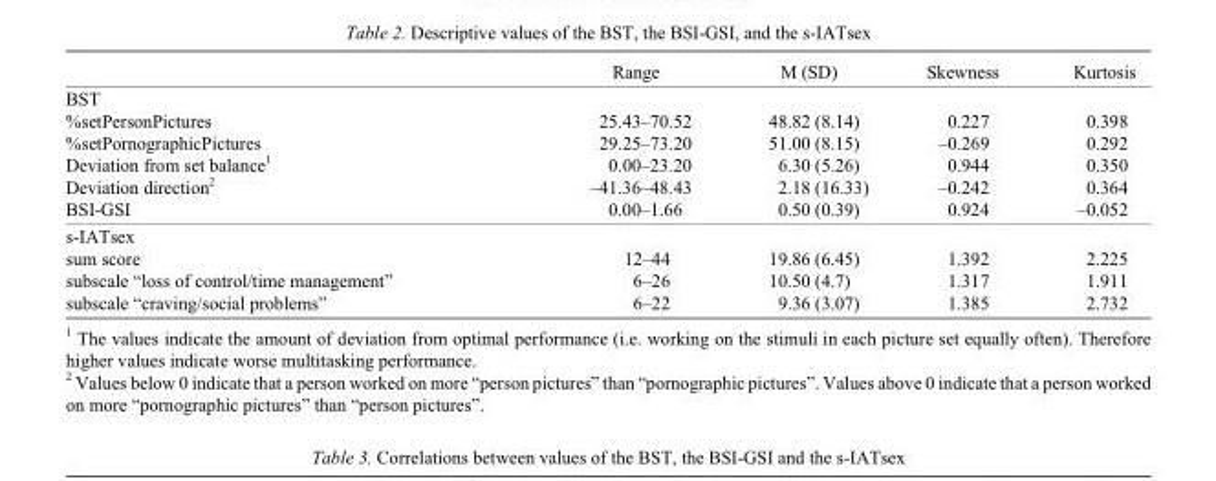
<table><thead><tr><td></td><td>Range</td><td>M (SD)</td><td>Skewness</td><td>Kurtosis</td></tr></thead><tbody><tr><td colspan="5">BST</td></tr><tr><td>%setPersonPictures</td><td>25.43–70.52</td><td>48.82 (8.14)</td><td>0.227</td><td>0.398</td></tr><tr><td>%setPornographicPictures</td><td>29.25–73.20</td><td>51.00 (8.15)</td><td>–0.269</td><td>0.292</td></tr><tr><td>Deviation from set balance<sup>1</sup></td><td>0.00–23.20</td><td>6.30 (5.26)</td><td>0.944</td><td>0.350</td></tr><tr><td>Deviation direction<sup>2</sup></td><td>–41.36–48.43</td><td>2.18 (16.33)</td><td>–0.242</td><td>0.364</td></tr><tr><td>BSI-GSI</td><td>0.00–1.66</td><td>0.50 (0.39)</td><td>0.924</td><td>–0.052</td></tr><tr><td colspan="5">s-IATsex</td></tr><tr><td>sum score</td><td>12–44</td><td>19.86 (6.45)</td><td>1.392</td><td>2.225</td></tr><tr><td>subscale “loss of control/time management”</td><td>6–26</td><td>10.50 (4.7)</td><td>1.317</td><td>1.911</td></tr><tr><td>subscale “craving/social problems”</td><td>6–22</td><td>9.36 (3.07)</td><td>1.385</td><td>2.732</td></tr><tr><td colspan="5"><sup>1</sup> The values indicate the amount of deviation from optimal performance (i.e. working on the stimuli in each picture set equally often). Therefore higher values indicate worse multitasking performance. <sup>2</sup> Values below 0 indicate that a person worked on more “person pictures” than “pornographic pictures”. Values above 0 indicate that a person worked on more “pornographic pictures” than “person pictures”.</td></tr></tbody></table>